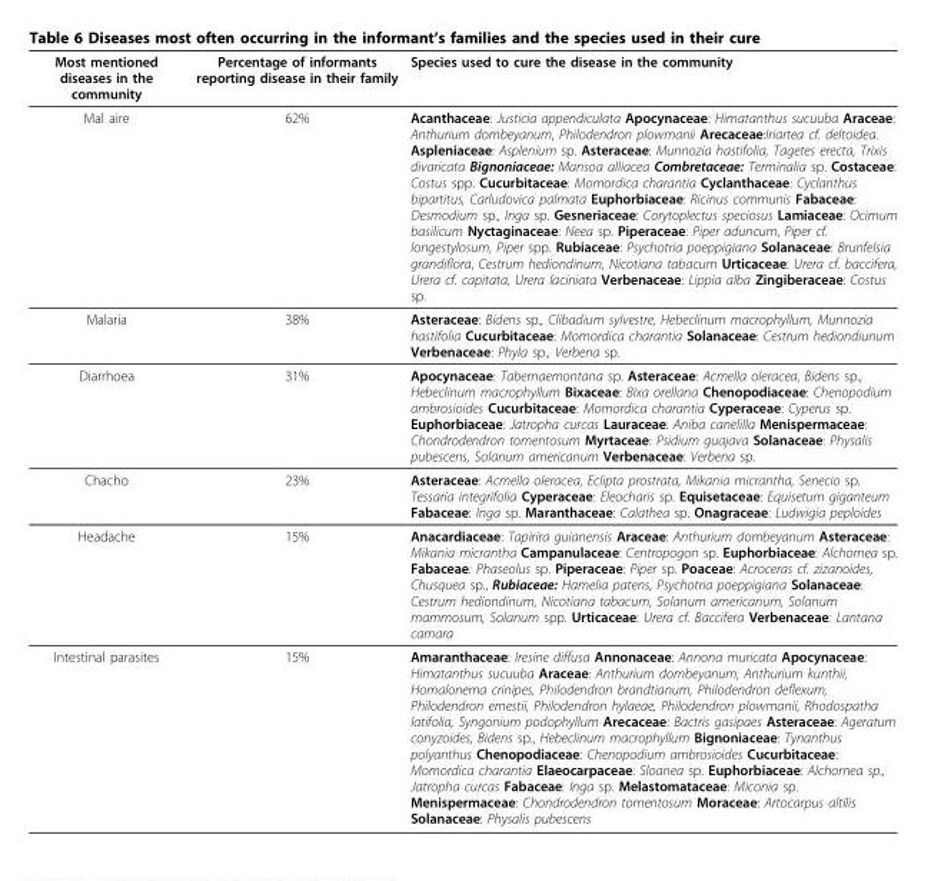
<table><thead><tr><td>Most mentioned diseases in the community</td><td>Percentage of informants reporting disease in their family</td><td>Species used to cure the disease in the community</td></tr></thead><tbody><tr><td>Mal aire</td><td>62%</td><td>Acanthaceae: Justicia appendiculata Apocynaceae: Himatanthus sucuuba Araceae: Anthurium dombeyanum, Philodendron plowmanii Arecaceae:Iriartea cf. deltoidea. Aspleniaceae: Asplenium sp. Asteraceae: Munnozia hastifolia, Tagetes erecta, Trixis divaricata Bignoniaceae: Mansoa alliacea Combretaceae: Terminalia sp. Costaceae: Costus spp. Cucurbitaceae: Momordica charantia Cyclanthaceae: Cyclanthus bipartitus, Carludovica palmata Euphorbiaceae: Ricinus communis Fabaceae: Desmodium sp., Inga sp. Gesneriaceae: Corytoplectus speciosus Lamiaceae: Ocimum basilicum Nyctaginaceae: Neea sp. Piperaceae: Piper aduncum, Piper cf. longestylosum, Piper spp. Rubiaceae: Psychotria poeppigiana Solanaceae: Brunfelsia grandiflora, Cestrum hediondinum, Nicotiana tabacum Urticaceae: Urera cf. baccifera, Urera cf. capitata, Urera laciniata Verbenaceae: Lippia alba Zingiberaceae: Costus sp.</td></tr><tr><td>Malaria</td><td>38%</td><td>Asteraceae: Bidens sp., Clibadium sylvestre, Hebeclinum macrophyllum, Munnozia hastifolia Cucurbitaceae: Momordica charantia Solanaceae: Cestrum hediondiunum Verbenaceae: Phyla sp., Verbena sp.</td></tr><tr><td>Diarrhoea</td><td>31%</td><td>Apocynaceae: Tabernaemontana sp. Asteraceae: Acmella oleracea, Bidens sp., Hebeclinum macrophyllum Bixaceae: Bixa orellana Chenopodiaceae: Chenopodium ambrosioides Cucurbitaceae: Momordica charantia Cyperaceae: Cyperus sp. Euphorbiaceae: Jatropha curcas Lauraceae: Aniba canelilla Menispermaceae: Chondrodendron tomentosum Myrtaceae: Psidium guajava Solanaceae: Physalis pubescens, Solanum americanum Verbenaceae: Verbena sp.</td></tr><tr><td>Chacho</td><td>23%</td><td>Asteraceae: Acmella oleracea, Eclipta prostrata, Mikania micrantha, Senecio sp. Tessaria integrifolia Cyperaceae: Eleocharis sp. Equisetaceae: Equisetum giganteum Fabaceae: Inga sp. Maranthaceae: Calathea sp. Onagraceae: Ludwigia peploides</td></tr><tr><td>Headache</td><td>15%</td><td>Anacardiaceae: Tapirira guianensis Araceae: Anthurium dombeyanum Asteraceae: Mikania micrantha Campanulaceae: Centropogon sp. Euphorbiaceae: Alchornea sp. Fabaceae: Phaseolus sp. Piperaceae: Piper sp. Poaceae: Acroceras cf. zizanoides, Chusquea sp., Rubiaceae: Hamelia patens, Psychotria poeppigiana Solanaceae: Cestrum hediondinum, Nicotiana tabacum, Solanum americanum, Solanum mammosum, Solanum spp. Urticaceae: Urera cf. Baccifera Verbenaceae: Lantana camara</td></tr><tr><td>Intestinal parasites</td><td>15%</td><td>Amaranthaceae: Iresine diffusa Annonaceae: Annona muricata Apocynaceae: Himatanthus sucuuba Araceae: Anthurium dombeyanum, Anthurium kunthii, Homalonema crinipes, Philodendron brandtianum, Philodendron deflexum, Philodendron ernestii, Philodendron hylaeae, Philodendron plowmanii, Rhodospatha latifolia, Syngonium podophyllum Arecaceae: Bactris gasipaes Asteraceae: Ageratum conyzoides, Bidens sp., Hebeclinum macrophyllum Bignoniaceae: Tynanthus polyanthus Chenopodiaceae: Chenopodium ambrosioides Cucurbitaceae: Momordica charantia Elaeocarpaceae: Sloanea sp. Euphorbiaceae: Alchornea sp., Jatropha curcas Fabaceae: Inga sp. Melastomataceae: Miconia sp. Menispermaceae: Chondrodendron tomentosum Moraceae: Artocarpus altilis Solanaceae: Physalis pubescens</td></tr></tbody></table>